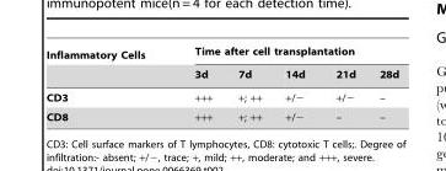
<table><thead><tr><td rowspan="2">Inflammatory Cells</td><td colspan="5">Time after cell transplantation</td></tr><tr><td>3d</td><td>7d</td><td>14d</td><td>21d</td><td>28d</td></tr></thead><tbody><tr><td>CD3</td><td>+++</td><td>+; ++</td><td>+/−</td><td>+/−</td><td>–</td></tr><tr><td>CD8</td><td>+++</td><td>+; ++</td><td>+/−</td><td>–</td><td>–</td></tr></tbody></table>